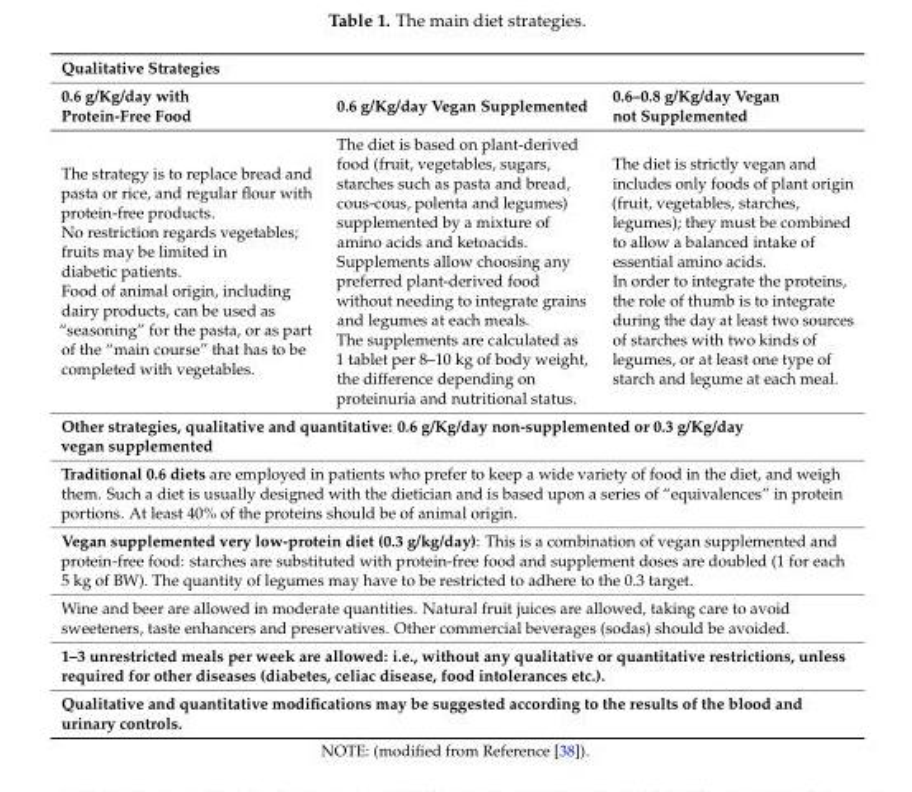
<table><thead><tr><td colspan="3">Qualitative Strategies</td></tr><tr><td>0.6 g/Kg/day with Protein-Free Food</td><td>0.6 g/Kg/day Vegan Supplemented</td><td>0.6–0.8 g/Kg/day Vegan not Supplemented</td></tr></thead><tbody><tr><td>The strategy is to replace bread and pasta or rice, and regular flour with protein-free products. No restriction regards vegetables; fruits may be limited in diabetic patients. Food of animal origin, including dairy products, can be used as “seasoning” for the pasta, or as part of the “main course” that has to be completed with vegetables.</td><td>The diet is based on plant-derived food (fruit, vegetables, sugars, starches such as pasta and bread, cous-cous, polenta and legumes) supplemented by a mixture of amino acids and ketoacids. Supplements allow choosing any preferred plant-derived food without needing to integrate grains and legumes at each meals. The supplements are calculated as 1 tablet per 8–10 kg of body weight, the difference depending on proteinuria and nutritional status.</td><td>The diet is strictly vegan and includes only foods of plant origin (fruit, vegetables, starches, legumes); they must be combined to allow a balanced intake of essential amino acids. In order to integrate the proteins, the role of thumb is to integrate during the day at least two sources of starches with two kinds of legumes, or at least one type of starch and legume at each meal.</td></tr><tr><td colspan="3">Other strategies, qualitative and quantitative: 0.6 g/Kg/day non-supplemented or 0.3 g/Kg/day vegan supplemented</td></tr><tr><td colspan="3">Traditional 0.6 diets are employed in patients who prefer to keep a wide variety of food in the diet, and weigh them. Such a diet is usually designed with the dietician and is based upon a series of “equivalences” in protein portions. At least 40% of the proteins should be of animal origin.</td></tr><tr><td colspan="3">Vegan supplemented very low-protein diet (0.3 g/kg/day): This is a combination of vegan supplemented and protein-free food: starches are substituted with protein-free food and supplement doses are doubled (1 for each 5 kg of BW). The quantity of legumes may have to be restricted to adhere to the 0.3 target.</td></tr><tr><td colspan="3">Wine and beer are allowed in moderate quantities. Natural fruit juices are allowed, taking care to avoid sweeteners, taste enhancers and preservatives. Other commercial beverages (sodas) should be avoided.</td></tr><tr><td colspan="3">1–3 unrestricted meals per week are allowed: i.e., without any qualitative or quantitative restrictions, unless required for other diseases (diabetes, celiac disease, food intolerances etc.).</td></tr><tr><td colspan="3">Qualitative and quantitative modifications may be suggested according to the results of the blood and urinary controls.</td></tr></tbody></table>